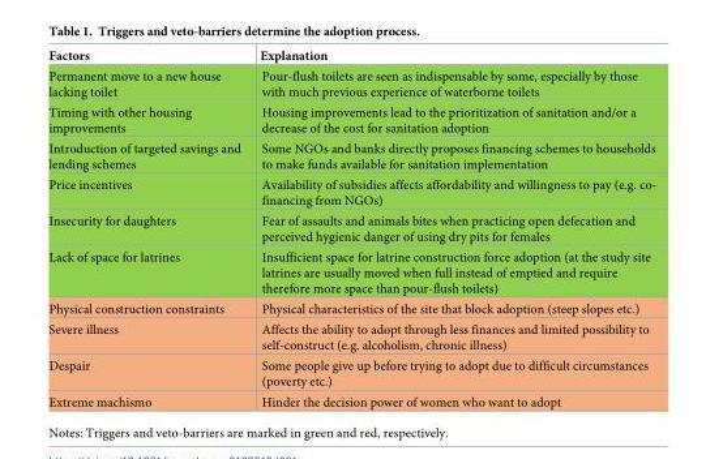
<table><thead><tr><td>Factors</td><td>Explanation</td></tr></thead><tbody><tr><td>Permanent move to a new house lacking toilet</td><td>Pour-flush toilets are seen as indispensable by some, especially by those with much previous experience of waterborne toilets</td></tr><tr><td>Timing with other housing improvements</td><td>Housing improvements lead to the prioritization of sanitation and/or a decrease of the cost for sanitation adoption</td></tr><tr><td>Introduction of targeted savings and lending schemes</td><td>Some NGOs and banks directly proposes financing schemes to households to make funds available for sanitation implementation</td></tr><tr><td>Price incentives</td><td>Availability of subsidies affects affordability and willingness to pay (e.g. co- financing from NGOs)</td></tr><tr><td>Insecurity for daughters</td><td>Fear of assaults and animals bites when practicing open defecation and perceived hygienic danger of using dry pits for females</td></tr><tr><td>Lack of space for latrines</td><td>Insufficient space for latrine construction force adoption (at the study site latrines are usually moved when full instead of emptied and require therefore more space than pour-flush toilets)</td></tr><tr><td>Physical construction constraints</td><td>Physical characteristics of the site that block adoption (steep slopes etc.)</td></tr><tr><td>Severe illness</td><td>Affects the ability to adopt through less finances and limited possibility to self-construct (e.g. alcoholism, chronic illness)</td></tr><tr><td>Despair</td><td>Some people give up before trying to adopt due to difficult circumstances (poverty etc.)</td></tr><tr><td>Extreme machismo</td><td>Hinder the decision power of women who want to adopt</td></tr></tbody></table>